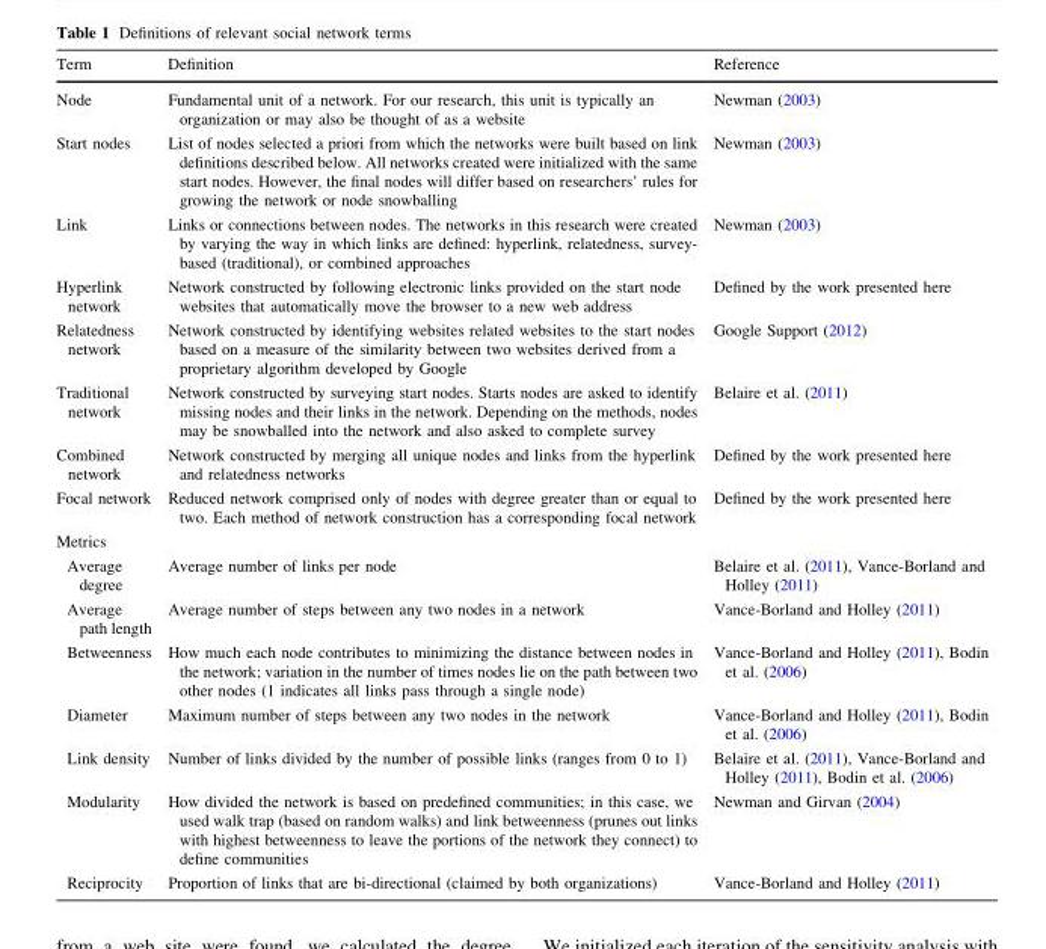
<table><thead><tr><td>Term</td><td>Definition</td><td>Reference</td></tr></thead><tbody><tr><td>Node</td><td>Fundamental unit of a network. For our research, this unit is typically an organization or may also be thought of as a website</td><td>Newman (2003)</td></tr><tr><td>Start nodes</td><td>List of nodes selected a priori from which the networks were built based on link definitions described below. All networks created were initialized with the same start nodes. However, the final nodes will differ based on researchers’ rules for growing the network or node snowballing</td><td>Newman (2003)</td></tr><tr><td>Link</td><td>Links or connections between nodes. The networks in this research were created by varying the way in which links are defined: hyperlink, relatedness, survey- based (traditional), or combined approaches</td><td>Newman (2003)</td></tr><tr><td>Hyperlink network</td><td>Network constructed by following electronic links provided on the start node websites that automatically move the browser to a new web address</td><td>Defined by the work presented here</td></tr><tr><td>Relatedness network</td><td>Network constructed by identifying websites related websites to the start nodes based on a measure of the similarity between two websites derived from a proprietary algorithm developed by Google</td><td>Google Support (2012)</td></tr><tr><td>Traditional network</td><td>Network constructed by surveying start nodes. Starts nodes are asked to identify missing nodes and their links in the network. Depending on the methods, nodes may be snowballed into the network and also asked to complete survey</td><td>Belaire et al. (2011)</td></tr><tr><td>Combined network</td><td>Network constructed by merging all unique nodes and links from the hyperlink and relatedness networks</td><td>Defined by the work presented here</td></tr><tr><td>Focal network</td><td>Reduced network comprised only of nodes with degree greater than or equal to two. Each method of network construction has a corresponding focal network</td><td>Defined by the work presented here</td></tr><tr><td colspan="3">Metrics</td></tr><tr><td>Average degree</td><td>Average number of links per node</td><td>Belaire et al. (2011), Vance-Borland and Holley (2011)</td></tr><tr><td>Average path length</td><td>Average number of steps between any two nodes in a network</td><td>Vance-Borland and Holley (2011)</td></tr><tr><td>Betweenness</td><td>How much each node contributes to minimizing the distance between nodes in the network; variation in the number of times nodes lie on the path between two other nodes (1 indicates all links pass through a single node)</td><td>Vance-Borland and Holley (2011), Bodin et al. (2006)</td></tr><tr><td>Diameter</td><td>Maximum number of steps between any two nodes in the network</td><td>Vance-Borland and Holley (2011), Bodin et al. (2006)</td></tr><tr><td>Link density</td><td>Number of links divided by the number of possible links (ranges from 0 to 1)</td><td>Belaire et al. (2011), Vance-Borland and Holley (2011), Bodin et al. (2006)</td></tr><tr><td>Modularity</td><td>How divided the network is based on predefined communities; in this case, we used walk trap (based on random walks) and link betweenness (prunes out links with highest betweenness to leave the portions of the network they connect) to define communities</td><td>Newman and Girvan (2004)</td></tr><tr><td>Reciprocity</td><td>Proportion of links that are bi-directional (claimed by both organizations)</td><td>Vance-Borland and Holley (2011)</td></tr></tbody></table>